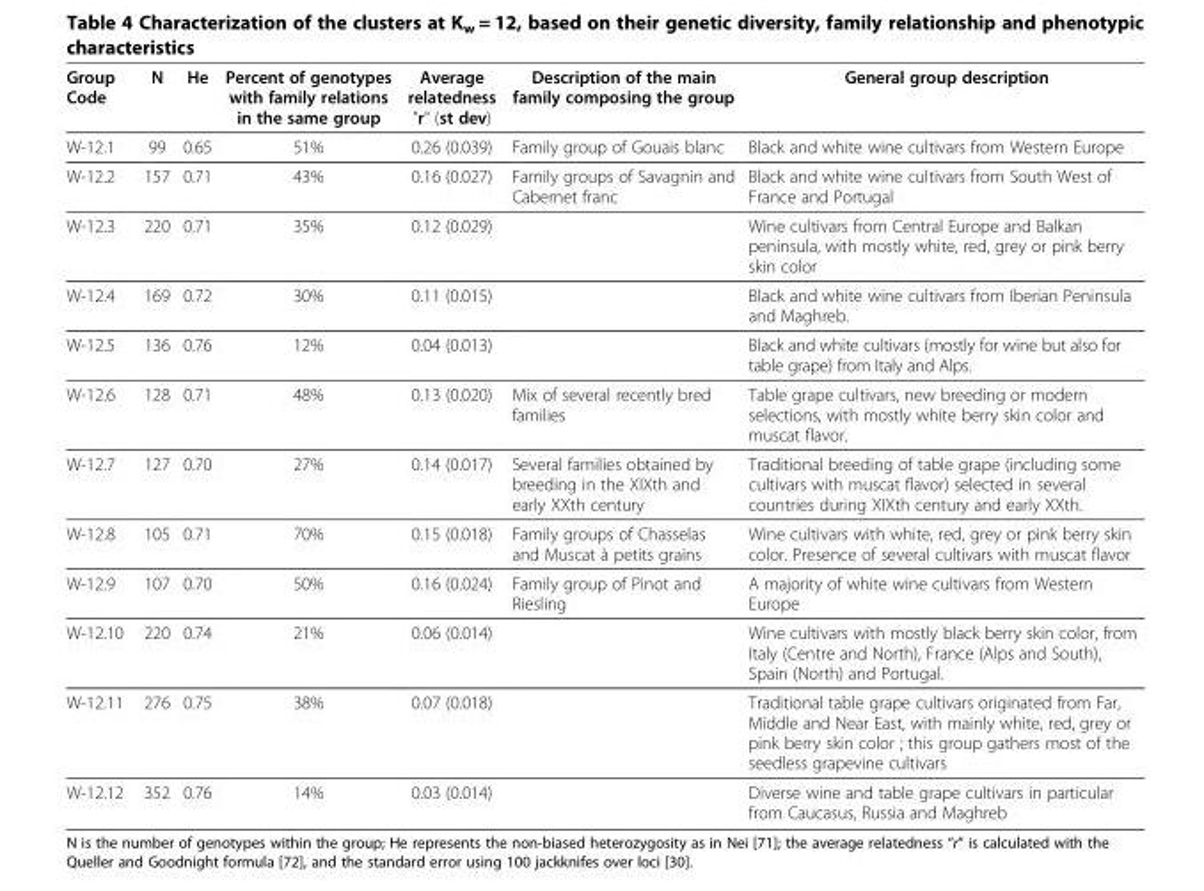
<table><thead><tr><td>Group Code</td><td>N</td><td>He</td><td>Percent of genotypes with family relations in the same group</td><td>Average relatedness &quot;r&quot; (st dev)</td><td>Description of the main family composing the group</td><td>General group description</td></tr></thead><tbody><tr><td>W-12.1</td><td>99</td><td>0.65</td><td>51%</td><td>0.26 (0.039)</td><td>Family group of Gouais blanc</td><td>Black and white wine cultivars from Western Europe</td></tr><tr><td>W-12.2</td><td>157</td><td>0.71</td><td>43%</td><td>0.16 (0.027)</td><td>Family groups of Savagnin and Cabernet franc</td><td>Black and white wine cultivars from South West of France and Portugal</td></tr><tr><td>W-12.3</td><td>220</td><td>0.71</td><td>35%</td><td>0.12 (0.029)</td><td></td><td>Wine cultivars from Central Europe and Balkan peninsula, with mostly white, red, grey or pink berry skin color</td></tr><tr><td>W-12.4</td><td>169</td><td>0.72</td><td>30%</td><td>0.11 (0.015)</td><td></td><td>Black and white wine cultivars from Iberian Peninsula and Maghreb.</td></tr><tr><td>W-12.5</td><td>136</td><td>0.76</td><td>12%</td><td>0.04 (0.013)</td><td></td><td>Black and white cultivars (mostly for wine but also for table grape) from Italy and Alps.</td></tr><tr><td>W-12.6</td><td>128</td><td>0.71</td><td>48%</td><td>0.13 (0.020)</td><td>Mix of several recently bred families</td><td>Table grape cultivars, new breeding or modern selections, with mostly white berry skin color and muscat flavor.</td></tr><tr><td>W-12.7</td><td>127</td><td>0.70</td><td>27%</td><td>0.14 (0.017)</td><td>Several families obtained by breeding in the XIXth and early XXth century</td><td>Traditional breeding of table grape (including some cultivars with muscat flavor) selected in several countries during XIXth century and early XXth.</td></tr><tr><td>W-12.8</td><td>105</td><td>0.71</td><td>70%</td><td>0.15 (0.018)</td><td>Family groups of Chasselas and Muscat à petits grains</td><td>Wine cultivars with white, red, grey or pink berry skin color. Presence of several cultivars with muscat flavor</td></tr><tr><td>W-12.9</td><td>107</td><td>0.70</td><td>50%</td><td>0.16 (0.024)</td><td>Family group of Pinot and Riesling</td><td>A majority of white wine cultivars from Western Europe</td></tr><tr><td>W-12.10</td><td>220</td><td>0.74</td><td>21%</td><td>0.06 (0.014)</td><td></td><td>Wine cultivars with mostly black berry skin color, from Italy (Centre and North), France (Alps and South), Spain (North) and Portugal.</td></tr><tr><td>W-12.11</td><td>276</td><td>0.75</td><td>38%</td><td>0.07 (0.018)</td><td></td><td>Traditional table grape cultivars originated from Far, Middle and Near East, with mainly white, red, grey or pink berry skin color ; this group gathers most of the seedless grapevine cultivars</td></tr><tr><td>W-12.12</td><td>352</td><td>0.76</td><td>14%</td><td>0.03 (0.014)</td><td></td><td>Diverse wine and table grape cultivars in particular from Caucasus, Russia and Maghreb</td></tr></tbody></table>